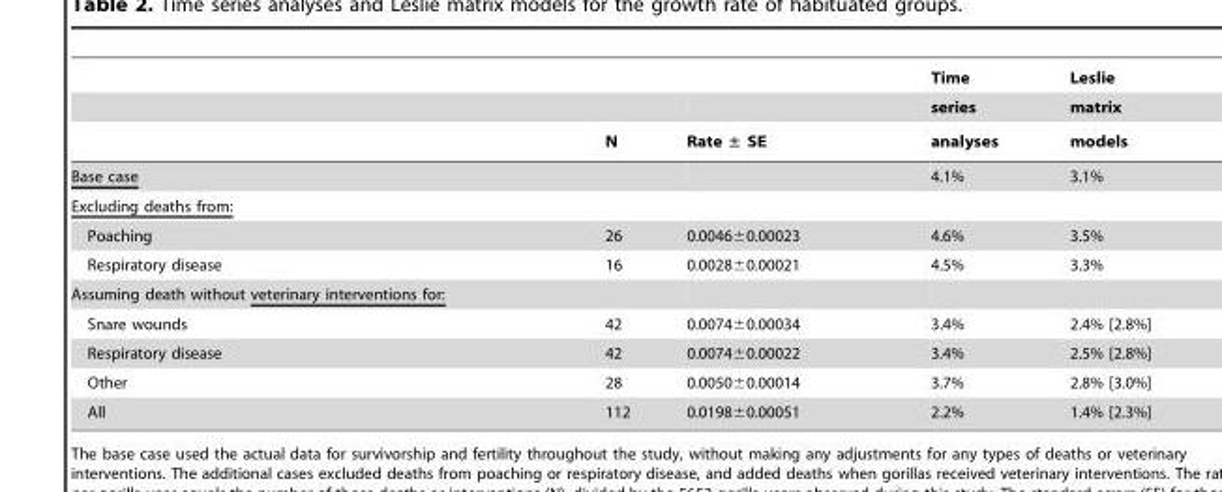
<table><thead><tr><td rowspan="3"></td><td rowspan="3">N</td><td rowspan="3">Rate ± SE</td><td rowspan="3">Time series analyses</td><td rowspan="3">Leslie matrix models</td></tr><tr></tr><tr></tr></thead><tbody><tr><td>Base case</td><td></td><td></td><td>4.1%</td><td>3.1%</td></tr><tr><td colspan="5">Excluding deaths from:</td></tr><tr><td>Poaching</td><td>26</td><td>0.0046±0.00023</td><td>4.6%</td><td>3.5%</td></tr><tr><td>Respiratory disease</td><td>16</td><td>0.0028±0.00021</td><td>4.5%</td><td>3.3%</td></tr><tr><td colspan="5">Assuming death without veterinary interventions for:</td></tr><tr><td>Snare wounds</td><td>42</td><td>0.0074±0.00034</td><td>3.4%</td><td>2.4% [2.8%]</td></tr><tr><td>Respiratory disease</td><td>42</td><td>0.0074±0.00022</td><td>3.4%</td><td>2.5% [2.8%]</td></tr><tr><td>Other</td><td>28</td><td>0.0050±0.00014</td><td>3.7%</td><td>2.8% [3.0%]</td></tr><tr><td>All</td><td>112</td><td>0.0198±0.00051</td><td>2.2%</td><td>1.4% [2.3%]</td></tr></tbody></table>